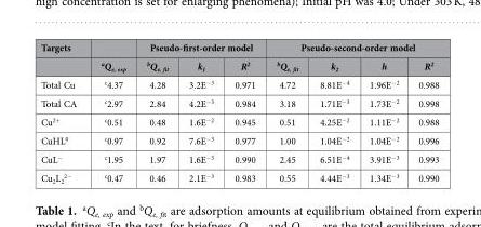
<table><thead><tr><td rowspan="2">Targets</td><td rowspan="2">aQ<sub>e, exp</sub></td><td colspan="3">Pseudo-first-order model</td><td colspan="4">Pseudo-second-order model</td></tr><tr><td>bQ<sub>e, fit</sub></td><td>k<sub>1</sub></td><td>R<sup>2</sup></td><td>bQ<sub>e, fit</sub></td><td>k<sub>2</sub></td><td>h</td><td>R<sup>2</sup></td></tr></thead><tbody><tr><td>Total Cu</td><td>c4.37</td><td>4.28</td><td>3.2E<sup>−3</sup></td><td>0.971</td><td>4.72</td><td>8.81E<sup>−4</sup></td><td>1.96E<sup>−2</sup></td><td>0.988</td></tr><tr><td>Total CA</td><td>c2.97</td><td>2.84</td><td>4.2E<sup>−3</sup></td><td>0.984</td><td>3.18</td><td>1.71E<sup>−3</sup></td><td>1.73E<sup>−2</sup></td><td>0.998</td></tr><tr><td>Cu<sup>2+</sup></td><td>c0.51</td><td>0.48</td><td>1.6E<sup>−2</sup></td><td>0.945</td><td>0.51</td><td>4.25E<sup>−2</sup></td><td>1.11E<sup>−2</sup></td><td>0.988</td></tr><tr><td>CuHL<sup>0</sup></td><td>c0.97</td><td>0.92</td><td>7.6E<sup>−3</sup></td><td>0.977</td><td>1.00</td><td>1.04E<sup>−2</sup></td><td>1.04E<sup>−2</sup></td><td>0.996</td></tr><tr><td>CuL<sup>−</sup></td><td>c1.95</td><td>1.97</td><td>1.6E<sup>−3</sup></td><td>0.990</td><td>2.45</td><td>6.51E<sup>−4</sup></td><td>3.91E<sup>−3</sup></td><td>0.993</td></tr><tr><td>Cu<sub>2</sub>L<sub>2</sub> <sup>2−</sup></td><td>c0.47</td><td>0.46</td><td>2.1E<sup>−3</sup></td><td>0.983</td><td>0.55</td><td>4.44E<sup>−3</sup></td><td>1.34E<sup>−3</sup></td><td>0.990</td></tr></tbody></table>